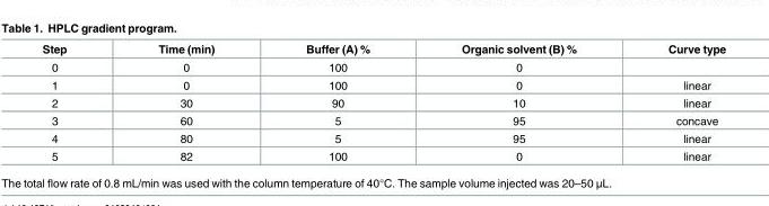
<table><thead><tr><td>Step</td><td>Time (min)</td><td>Buffer (A) %</td><td>Organic solvent (B) %</td><td>Curve type</td></tr></thead><tbody><tr><td>0</td><td>0</td><td>100</td><td>0</td><td></td></tr><tr><td>1</td><td>0</td><td>100</td><td>0</td><td>linear</td></tr><tr><td>2</td><td>30</td><td>90</td><td>10</td><td>linear</td></tr><tr><td>3</td><td>60</td><td>5</td><td>95</td><td>concave</td></tr><tr><td>4</td><td>80</td><td>5</td><td>95</td><td>linear</td></tr><tr><td>5</td><td>82</td><td>100</td><td>0</td><td>linear</td></tr></tbody></table>